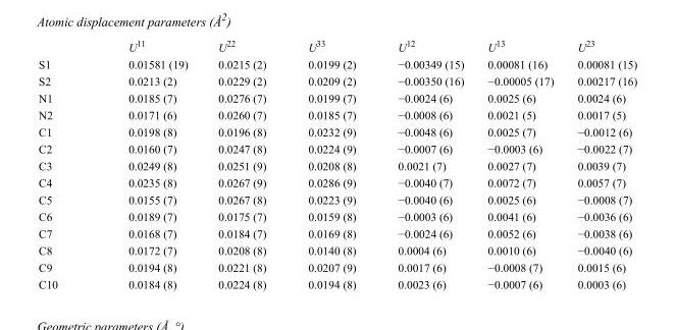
<table><thead><tr><td></td><td>U<sup>11</sup></td><td>U<sup>22</sup></td><td>U<sup>33</sup></td><td>U<sup>12</sup></td><td>U<sup>13</sup></td><td>U<sup>23</sup></td></tr></thead><tbody><tr><td>S1</td><td>0.01581 (19)</td><td>0.0215 (2)</td><td>0.0199 (2)</td><td>−0.00349 (15)</td><td>0.00081 (16)</td><td>0.00081 (15)</td></tr><tr><td>S2</td><td>0.0213 (2)</td><td>0.0229 (2)</td><td>0.0209 (2)</td><td>−0.00350 (16)</td><td>−0.00005 (17)</td><td>0.00217 (16)</td></tr><tr><td>N1</td><td>0.0185 (7)</td><td>0.0276 (7)</td><td>0.0199 (7)</td><td>−0.0024 (6)</td><td>0.0025 (6)</td><td>0.0024 (6)</td></tr><tr><td>N2</td><td>0.0171 (6)</td><td>0.0260 (7)</td><td>0.0185 (7)</td><td>−0.0008 (6)</td><td>0.0021 (5)</td><td>0.0017 (5)</td></tr><tr><td>C1</td><td>0.0198 (8)</td><td>0.0196 (8)</td><td>0.0232 (9)</td><td>−0.0048 (6)</td><td>0.0025 (7)</td><td>−0.0012 (6)</td></tr><tr><td>C2</td><td>0.0160 (7)</td><td>0.0247 (8)</td><td>0.0224 (9)</td><td>−0.0007 (6)</td><td>−0.0003 (6)</td><td>−0.0022 (7)</td></tr><tr><td>C3</td><td>0.0249 (8)</td><td>0.0251 (9)</td><td>0.0208 (8)</td><td>0.0021 (7)</td><td>0.0027 (7)</td><td>0.0039 (7)</td></tr><tr><td>C4</td><td>0.0235 (8)</td><td>0.0267 (9)</td><td>0.0286 (9)</td><td>−0.0040 (7)</td><td>0.0072 (7)</td><td>0.0057 (7)</td></tr><tr><td>C5</td><td>0.0155 (7)</td><td>0.0267 (8)</td><td>0.0223 (9)</td><td>−0.0040 (6)</td><td>0.0025 (6)</td><td>−0.0008 (7)</td></tr><tr><td>C6</td><td>0.0189 (7)</td><td>0.0175 (7)</td><td>0.0159 (8)</td><td>−0.0003 (6)</td><td>0.0041 (6)</td><td>−0.0036 (6)</td></tr><tr><td>C7</td><td>0.0168 (7)</td><td>0.0184 (7)</td><td>0.0169 (8)</td><td>−0.0024 (6)</td><td>0.0052 (6)</td><td>−0.0038 (6)</td></tr><tr><td>C8</td><td>0.0172 (7)</td><td>0.0208 (8)</td><td>0.0140 (8)</td><td>0.0004 (6)</td><td>0.0010 (6)</td><td>−0.0040 (6)</td></tr><tr><td>C9</td><td>0.0194 (8)</td><td>0.0221 (8)</td><td>0.0207 (9)</td><td>0.0017 (6)</td><td>−0.0008 (7)</td><td>0.0015 (6)</td></tr><tr><td>C10</td><td>0.0184 (8)</td><td>0.0224 (8)</td><td>0.0194 (8)</td><td>0.0023 (6)</td><td>−0.0007 (6)</td><td>0.0003 (6)</td></tr></tbody></table>